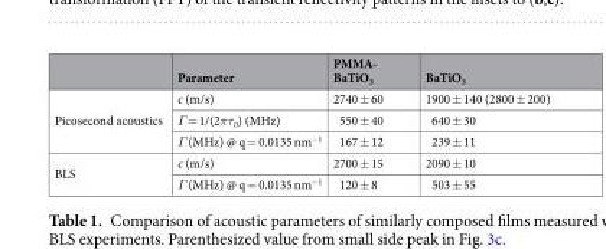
<table><thead><tr><td></td><td>Parameter</td><td>PMMA- BaTiO<sub>3</sub></td><td>BaTiO<sub>3</sub></td></tr></thead><tbody><tr><td rowspan="3">Picosecond acoustics</td><td>c (m/s)</td><td>2740 ± 60</td><td>1900 ± 140 (2800 ± 200)</td></tr><tr><td>Γ = 1/(2πτ<sub>0</sub>) (MHz)</td><td>550 ± 40</td><td>640 ± 30</td></tr><tr><td>Γ (MHz) @ q = 0.0135 nm<sup>−1</sup></td><td>167 ± 12</td><td>239 ± 11</td></tr><tr><td rowspan="2">BLS</td><td>c (m/s)</td><td>2700 ± 15</td><td>2090 ± 10</td></tr><tr><td>Γ (MHz) @ q = 0.0135 nm<sup>−1</sup></td><td>120 ± 8</td><td>503 ± 55</td></tr></tbody></table>